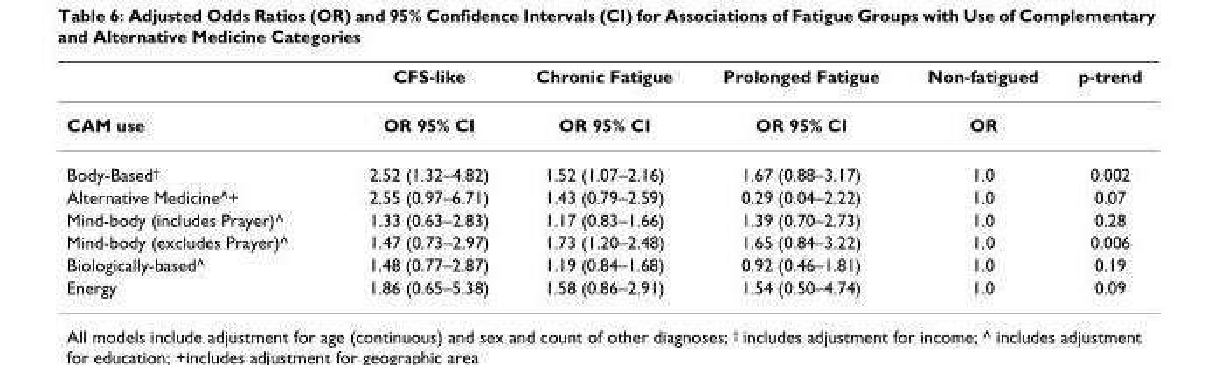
<table><thead><tr><td></td><td>CFS-like</td><td>Chronic Fatigue</td><td>Prolonged Fatigue</td><td>Non-fatigued</td><td>p-trend</td></tr></thead><tbody><tr><td>CAM use</td><td>OR 95% CI</td><td>OR 95% CI</td><td>OR 95% CI</td><td>OR</td><td></td></tr><tr><td>Body-Based<sup>†</sup></td><td>2.52 (1.32–4.82)</td><td>1.52 (1.07–2.16)</td><td>1.67 (0.88–3.17)</td><td>1.0</td><td>0.002</td></tr><tr><td>Alternative Medicine^+</td><td>2.55 (0.97–6.71)</td><td>1.43 (0.79–2.59)</td><td>0.29 (0.04–2.22)</td><td>1.0</td><td>0.07</td></tr><tr><td>Mind-body (includes Prayer)^</td><td>1.33 (0.63–2.83)</td><td>1.17 (0.83–1.66)</td><td>1.39 (0.70–2.73)</td><td>1.0</td><td>0.28</td></tr><tr><td>Mind-body (excludes Prayer)^</td><td>1.47 (0.73–2.97)</td><td>1.73 (1.20–2.48)</td><td>1.65 (0.84–3.22)</td><td>1.0</td><td>0.006</td></tr><tr><td>Biologically-based^</td><td>1.48 (0.77–2.87)</td><td>1.19 (0.84–1.68)</td><td>0.92 (0.46–1.81)</td><td>1.0</td><td>0.19</td></tr><tr><td>Energy</td><td>1.86 (0.65–5.38)</td><td>1.58 (0.86–2.91)</td><td>1.54 (0.50–4.74)</td><td>1.0</td><td>0.09</td></tr></tbody></table>